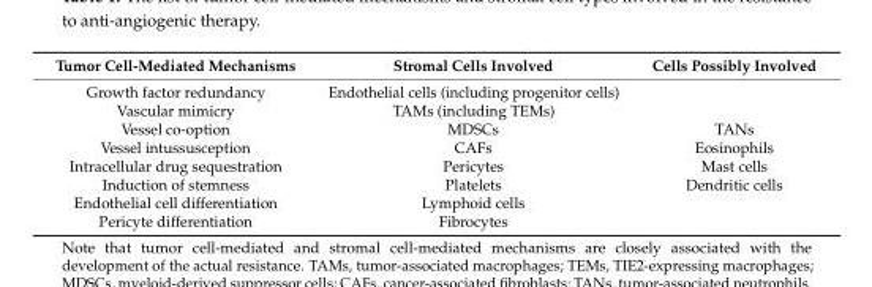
<table><thead><tr><td>Tumor Cell-Mediated Mechanisms</td><td>Stromal Cells Involved</td><td>Cells Possibly Involved</td></tr></thead><tbody><tr><td>Growth factor redundancy Vascular mimicry Vessel co-option Vessel intussusception Intracellular drug sequestration Induction of stemness Endothelial cell differentiation Pericyte differentiation</td><td>Endothelial cells (including progenitor cells) TAMs (including TEMs) MDSCs CAFs Pericytes Platelets Lymphoid cells Fibrocytes</td><td>TANs Eosinophils Mast cells Dendritic cells</td></tr></tbody></table>